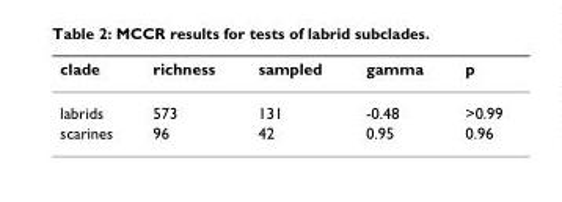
<table><thead><tr><td>clade</td><td>richness</td><td>sampled</td><td>gamma</td><td>p</td></tr></thead><tbody><tr><td>labrids</td><td>573</td><td>131</td><td>-0.48</td><td>&gt;0.99</td></tr><tr><td>scarines</td><td>96</td><td>42</td><td>0.95</td><td>0.96</td></tr></tbody></table>